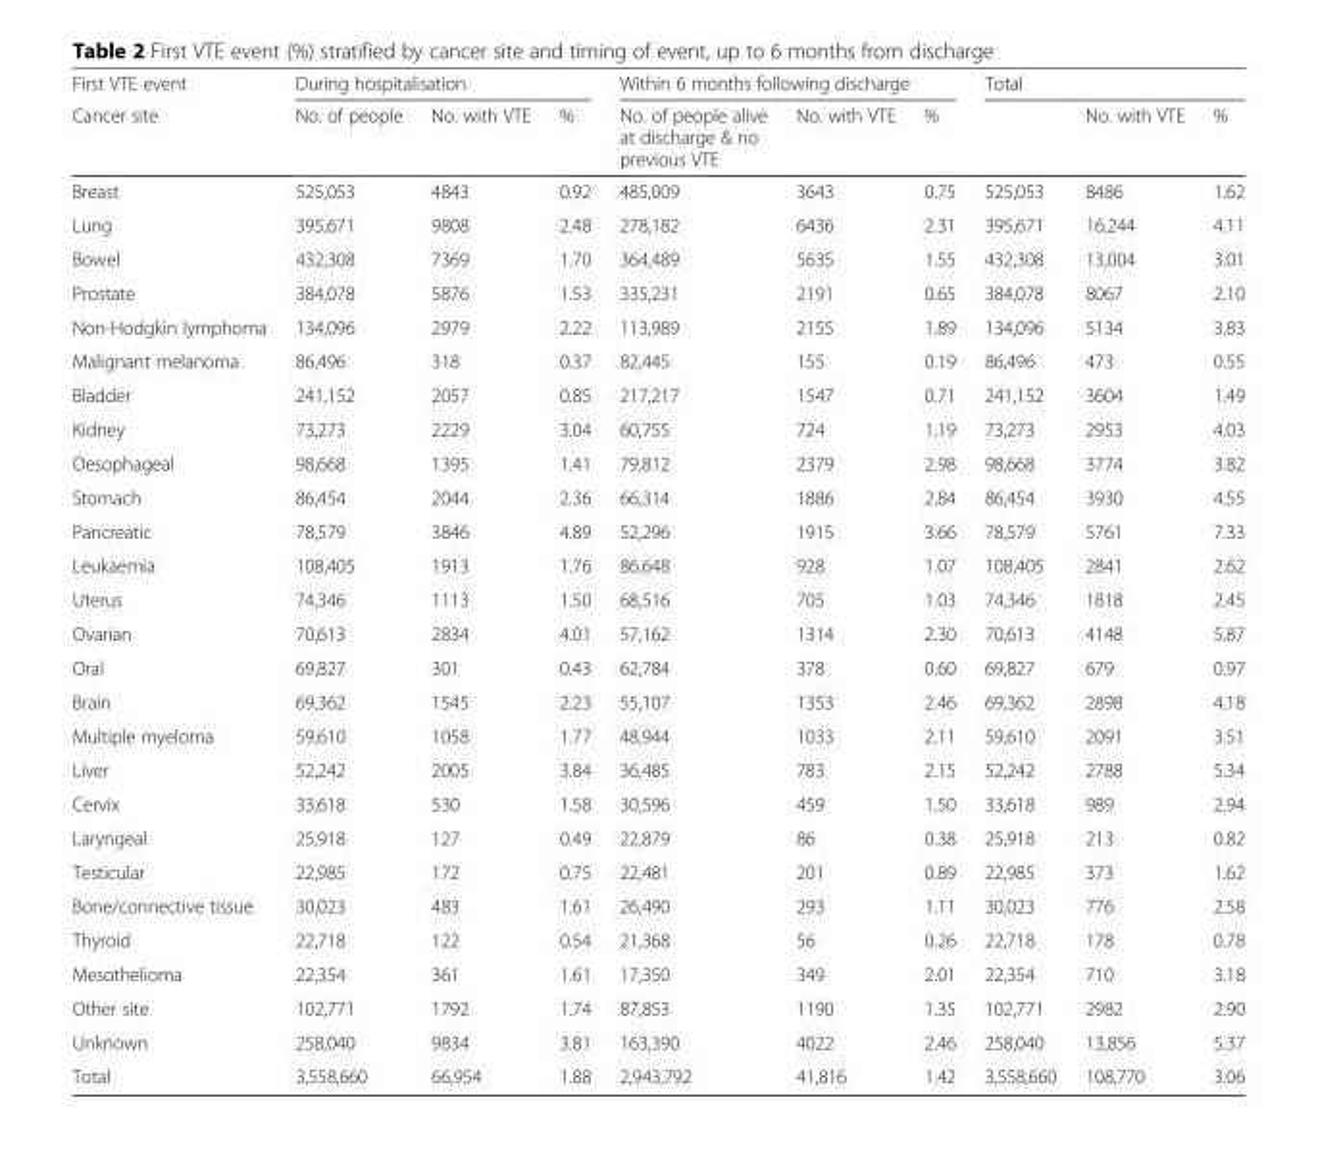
<table><thead><tr><td rowspan="2">First VTE event Cancer site</td><td colspan="3">During hospitalisation</td><td colspan="3">Within 6 months following discharge</td><td colspan="3">Total</td></tr><tr><td>No. of people</td><td>No. with VTE</td><td>%</td><td>No. of people alive at discharge &amp; no previous VTE</td><td>No. with VTE</td><td>%</td><td></td><td>No. with VTE</td><td>%</td></tr></thead><tbody><tr><td>Breast</td><td>525,053</td><td>4843</td><td>0.92</td><td>485,009</td><td>3643</td><td>0.75</td><td>525,053</td><td>8486</td><td>1.62</td></tr><tr><td>Lung</td><td>395,671</td><td>9808</td><td>2.48</td><td>278,182</td><td>6436</td><td>2.31</td><td>395,671</td><td>16,244</td><td>4.11</td></tr><tr><td>Bowel</td><td>432,308</td><td>7369</td><td>1.70</td><td>364,489</td><td>5635</td><td>1.55</td><td>432,308</td><td>13,004</td><td>3.01</td></tr><tr><td>Prostate</td><td>384,078</td><td>5876</td><td>1.53</td><td>335,231</td><td>2191</td><td>0.65</td><td>384,078</td><td>8067</td><td>2.10</td></tr><tr><td>Non-Hodgkin lymphoma</td><td>134,096</td><td>2979</td><td>2.22</td><td>113,989</td><td>2155</td><td>1.89</td><td>134,096</td><td>5134</td><td>3.83</td></tr><tr><td>Malignant melanoma</td><td>86,496</td><td>318</td><td>0.37</td><td>82,445</td><td>155</td><td>0.19</td><td>86,496</td><td>473</td><td>0.55</td></tr><tr><td>Bladder</td><td>241,152</td><td>2057</td><td>0.85</td><td>217,217</td><td>1547</td><td>0.71</td><td>241,152</td><td>3604</td><td>1.49</td></tr><tr><td>Kidney</td><td>73,273</td><td>2229</td><td>3.04</td><td>60,755</td><td>724</td><td>1.19</td><td>73,273</td><td>2953</td><td>4.03</td></tr><tr><td>Oesophageal</td><td>98,668</td><td>1395</td><td>1.41</td><td>79,812</td><td>2379</td><td>2.98</td><td>98,668</td><td>3774</td><td>3.82</td></tr><tr><td>Stomach</td><td>86,454</td><td>2044</td><td>2.36</td><td>66,314</td><td>1886</td><td>2.84</td><td>86,454</td><td>3930</td><td>4.55</td></tr><tr><td>Pancreatic</td><td>78,579</td><td>3846</td><td>4.89</td><td>52,296</td><td>1915</td><td>3.66</td><td>78,579</td><td>5761</td><td>7.33</td></tr><tr><td>Leukaemia</td><td>108,405</td><td>1913</td><td>1.76</td><td>86,648</td><td>928</td><td>1.07</td><td>108,405</td><td>2841</td><td>2.62</td></tr><tr><td>Uterus</td><td>74,346</td><td>1113</td><td>1.50</td><td>68,516</td><td>705</td><td>1.03</td><td>74,346</td><td>1818</td><td>2.45</td></tr><tr><td>Ovarian</td><td>70,613</td><td>2834</td><td>4.01</td><td>57,162</td><td>1314</td><td>2.30</td><td>70,613</td><td>4148</td><td>5.87</td></tr><tr><td>Oral</td><td>69,827</td><td>301</td><td>0.43</td><td>62,784</td><td>378</td><td>0.60</td><td>69,827</td><td>679</td><td>0.97</td></tr><tr><td>Brain</td><td>69,362</td><td>1545</td><td>2.23</td><td>55,107</td><td>1353</td><td>2.46</td><td>69,362</td><td>2898</td><td>4.18</td></tr><tr><td>Multiple myeloma</td><td>59,610</td><td>1058</td><td>1.77</td><td>48,944</td><td>1033</td><td>2.11</td><td>59,610</td><td>2091</td><td>3.51</td></tr><tr><td>Liver</td><td>52,242</td><td>2005</td><td>3.84</td><td>36,485</td><td>783</td><td>2.15</td><td>52,242</td><td>2788</td><td>5.34</td></tr><tr><td>Cervix</td><td>33,618</td><td>530</td><td>1.58</td><td>30,596</td><td>459</td><td>1.50</td><td>33,618</td><td>989</td><td>2.94</td></tr><tr><td>Laryngeal</td><td>25,918</td><td>127</td><td>0.49</td><td>22,879</td><td>86</td><td>0.38</td><td>25,918</td><td>213</td><td>0.82</td></tr><tr><td>Testicular</td><td>22,985</td><td>172</td><td>0.75</td><td>22,481</td><td>201</td><td>0.89</td><td>22,985</td><td>373</td><td>1.62</td></tr><tr><td>Bone/connective tissue</td><td>30,023</td><td>483</td><td>1.61</td><td>26,490</td><td>293</td><td>1.11</td><td>30,023</td><td>776</td><td>2.58</td></tr><tr><td>Thyroid</td><td>22,718</td><td>122</td><td>0.54</td><td>21,368</td><td>56</td><td>0.26</td><td>22,718</td><td>178</td><td>0.78</td></tr><tr><td>Mesothelioma</td><td>22,354</td><td>361</td><td>1.61</td><td>17,350</td><td>349</td><td>2.01</td><td>22,354</td><td>710</td><td>3.18</td></tr><tr><td>Other site</td><td>102,771</td><td>1792</td><td>1.74</td><td>87,853</td><td>1190</td><td>1.35</td><td>102,771</td><td>2982</td><td>2.90</td></tr><tr><td>Unknown</td><td>258,040</td><td>9834</td><td>3.81</td><td>163,390</td><td>4022</td><td>2.46</td><td>258,040</td><td>13,856</td><td>5.37</td></tr><tr><td>Total</td><td>3,558,660</td><td>66,954</td><td>1.88</td><td>2,943,792</td><td>41,816</td><td>1.42</td><td>3,558,660</td><td>108,770</td><td>3.06</td></tr></tbody></table>